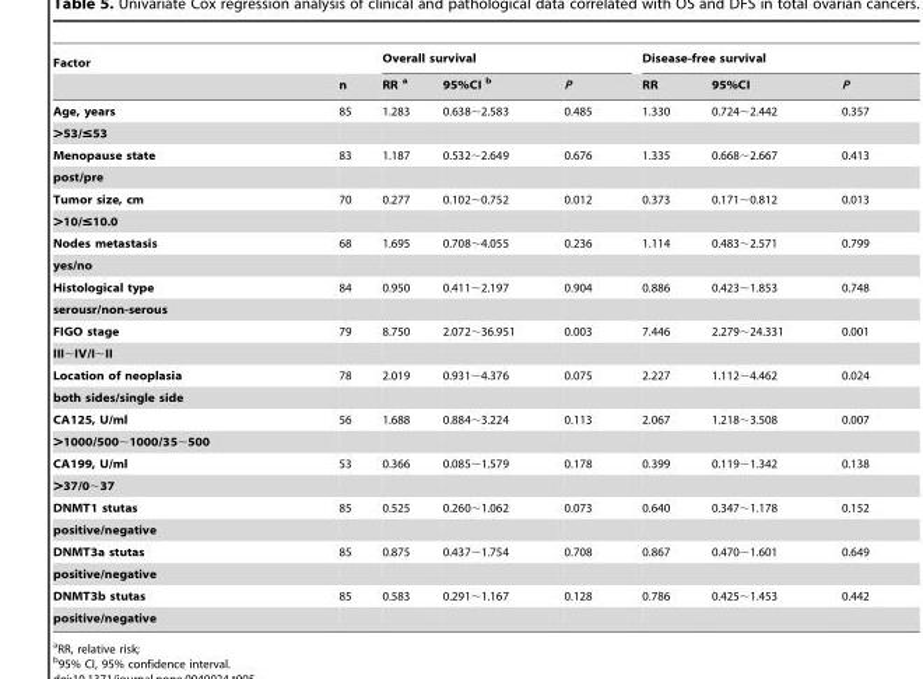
<table><thead><tr><td rowspan="2">Factor</td><td rowspan="2">n</td><td colspan="3">Overall survival</td><td colspan="3">Disease-free survival</td></tr><tr><td>RR a</td><td>95%CI b</td><td>P</td><td>RR</td><td>95%CI</td><td>P</td></tr></thead><tbody><tr><td>Age, years</td><td>85</td><td>1.283</td><td>0.638∼2.583</td><td>0.485</td><td>1.330</td><td>0.724∼2.442</td><td>0.357</td></tr><tr><td colspan="8">&gt;53/≤53</td></tr><tr><td>Menopause state</td><td>83</td><td>1.187</td><td>0.532∼2.649</td><td>0.676</td><td>1.335</td><td>0.668∼2.667</td><td>0.413</td></tr><tr><td colspan="8">post/pre</td></tr><tr><td>Tumor size, cm</td><td>70</td><td>0.277</td><td>0.102∼0.752</td><td>0.012</td><td>0.373</td><td>0.171∼0.812</td><td>0.013</td></tr><tr><td colspan="8">&gt;10/≤10.0</td></tr><tr><td>Nodes metastasis</td><td>68</td><td>1.695</td><td>0.708∼4.055</td><td>0.236</td><td>1.114</td><td>0.483∼2.571</td><td>0.799</td></tr><tr><td colspan="8">yes/no</td></tr><tr><td>Histological type</td><td>84</td><td>0.950</td><td>0.411∼2.197</td><td>0.904</td><td>0.886</td><td>0.423∼1.853</td><td>0.748</td></tr><tr><td colspan="8">serousr/non-serous</td></tr><tr><td>FIGO stage</td><td>79</td><td>8.750</td><td>2.072∼36.951</td><td>0.003</td><td>7.446</td><td>2.279∼24.331</td><td>0.001</td></tr><tr><td colspan="8">III∼IV/I∼II</td></tr><tr><td>Location of neoplasia</td><td>78</td><td>2.019</td><td>0.931∼4.376</td><td>0.075</td><td>2.227</td><td>1.112∼4.462</td><td>0.024</td></tr><tr><td colspan="8">both sides/single side</td></tr><tr><td>CA125, U/ml</td><td>56</td><td>1.688</td><td>0.884∼3.224</td><td>0.113</td><td>2.067</td><td>1.218∼3.508</td><td>0.007</td></tr><tr><td colspan="8">&gt;1000/500∼1000/35∼500</td></tr><tr><td>CA199, U/ml</td><td>53</td><td>0.366</td><td>0.085∼1.579</td><td>0.178</td><td>0.399</td><td>0.119∼1.342</td><td>0.138</td></tr><tr><td colspan="8">&gt;37/0∼37</td></tr><tr><td>DNMT1 stutas</td><td>85</td><td>0.525</td><td>0.260∼1.062</td><td>0.073</td><td>0.640</td><td>0.347∼1.178</td><td>0.152</td></tr><tr><td colspan="8">positive/negative</td></tr><tr><td>DNMT3a stutas</td><td>85</td><td>0.875</td><td>0.437∼1.754</td><td>0.708</td><td>0.867</td><td>0.470∼1.601</td><td>0.649</td></tr><tr><td colspan="8">positive/negative</td></tr><tr><td>DNMT3b stutas</td><td>85</td><td>0.583</td><td>0.291∼1.167</td><td>0.128</td><td>0.786</td><td>0.425∼1.453</td><td>0.442</td></tr><tr><td>positive/negative</td><td></td><td></td><td></td><td></td><td></td><td></td><td></td></tr></tbody></table>